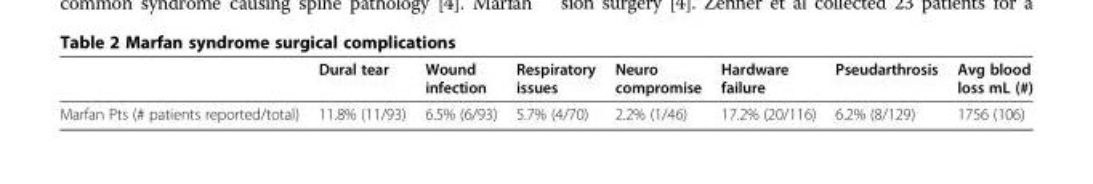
<table><thead><tr><td></td><td>Dural tear</td><td>Wound infection</td><td>Respiratory issues</td><td>Neuro compromise</td><td>Hardware failure</td><td>Pseudarthrosis</td><td>Avg blood loss mL (#)</td></tr></thead><tbody><tr><td>Marfan Pts (# patients reported/total)</td><td>11.8% (11/93)</td><td>6.5% (6/93)</td><td>5.7% (4/70)</td><td>2.2% (1/46)</td><td>17.2% (20/116)</td><td>6.2% (8/129)</td><td>1756 (106)</td></tr></tbody></table>